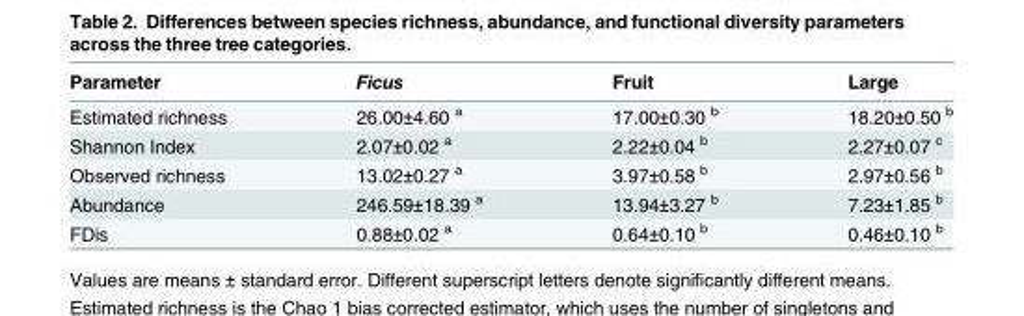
<table><thead><tr><td>Parameter</td><td>Ficus</td><td>Fruit</td><td>Large</td></tr></thead><tbody><tr><td>Estimated richness</td><td>26.00±4.60 <sup>a</sup></td><td>17.00±0.30 <sup>b</sup></td><td>18.20±0.50 <sup>b</sup></td></tr><tr><td>Shannon Index</td><td>2.07±0.02 <sup>a</sup></td><td>2.22±0.04 <sup>b</sup></td><td>2.27±0.07 <sup>c</sup></td></tr><tr><td>Observed richness</td><td>13.02±0.27 <sup>a</sup></td><td>3.97±0.58 <sup>b</sup></td><td>2.97±0.56 <sup>b</sup></td></tr><tr><td>Abundance</td><td>246.59±18.39 <sup>a</sup></td><td>13.94±3.27 <sup>b</sup></td><td>7.23±1.85 <sup>b</sup></td></tr><tr><td>FDis</td><td>0.88±0.02 <sup>a</sup></td><td>0.64±0.10 <sup>b</sup></td><td>0.46±0.10 <sup>b</sup></td></tr></tbody></table>